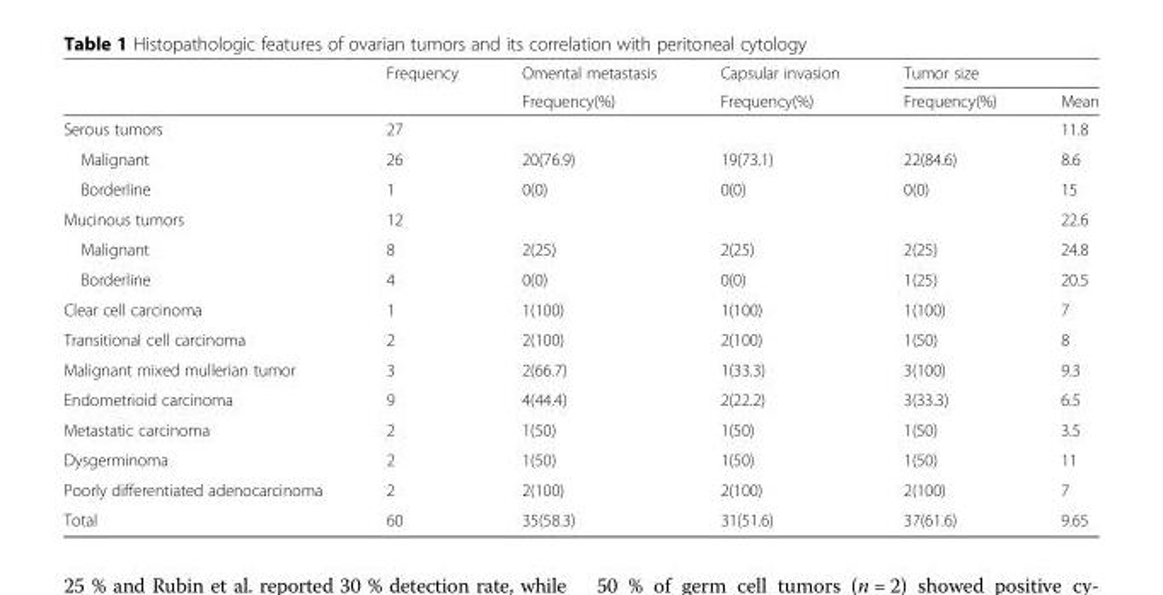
<table><thead><tr><td rowspan="2"></td><td rowspan="2">Frequency</td><td rowspan="2">Omental metastasis Frequency(%)</td><td rowspan="2">Capsular invasion Frequency(%)</td><td colspan="2">Tumor size</td></tr><tr><td>Frequency(%)</td><td>Mean</td></tr></thead><tbody><tr><td>Serous tumors</td><td>27</td><td></td><td></td><td></td><td>11.8</td></tr><tr><td>Malignant</td><td>26</td><td>20(76.9)</td><td>19(73.1)</td><td>22(84.6)</td><td>8.6</td></tr><tr><td>Borderline</td><td>1</td><td>0(0)</td><td>0(0)</td><td>0(0)</td><td>15</td></tr><tr><td>Mucinous tumors</td><td>12</td><td></td><td></td><td></td><td>22.6</td></tr><tr><td>Malignant</td><td>8</td><td>2(25)</td><td>2(25)</td><td>2(25)</td><td>24.8</td></tr><tr><td>Borderline</td><td>4</td><td>0(0)</td><td>0(0)</td><td>1(25)</td><td>20.5</td></tr><tr><td>Clear cell carcinoma</td><td>1</td><td>1(100)</td><td>1(100)</td><td>1(100)</td><td>7</td></tr><tr><td>Transitional cell carcinoma</td><td>2</td><td>2(100)</td><td>2(100)</td><td>1(50)</td><td>8</td></tr><tr><td>Malignant mixed mullerian tumor</td><td>3</td><td>2(66.7)</td><td>1(33.3)</td><td>3(100)</td><td>9.3</td></tr><tr><td>Endometrioid carcinoma</td><td>9</td><td>4(44.4)</td><td>2(22.2)</td><td>3(33.3)</td><td>6.5</td></tr><tr><td>Metastatic carcinoma</td><td>2</td><td>1(50)</td><td>1(50)</td><td>1(50)</td><td>3.5</td></tr><tr><td>Dysgerminoma</td><td>2</td><td>1(50)</td><td>1(50)</td><td>1(50)</td><td>11</td></tr><tr><td>Poorly differentiated adenocarcinoma</td><td>2</td><td>2(100)</td><td>2(100)</td><td>2(100)</td><td>7</td></tr><tr><td>Total</td><td>60</td><td>35(58.3)</td><td>31(51.6)</td><td>37(61.6)</td><td>9.65</td></tr></tbody></table>